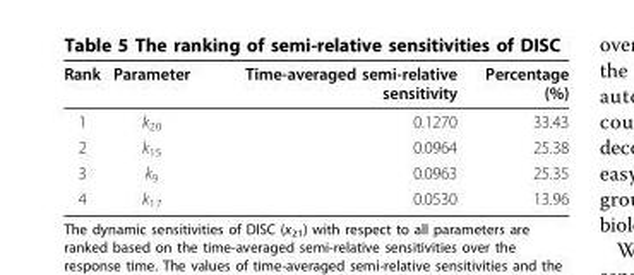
<table><thead><tr><td>Rank</td><td>Parameter</td><td>Time-averaged semi-relative sensitivity</td><td>Percentage (%)</td></tr></thead><tbody><tr><td>1</td><td>k<sub>20</sub></td><td>0.1270</td><td>33.43</td></tr><tr><td>2</td><td>k<sub>15</sub></td><td>0.0964</td><td>25.38</td></tr><tr><td>3</td><td>k<sub>9</sub></td><td>0.0963</td><td>25.35</td></tr><tr><td>4</td><td>k<sub>17</sub></td><td>0.0530</td><td>13.96</td></tr></tbody></table>